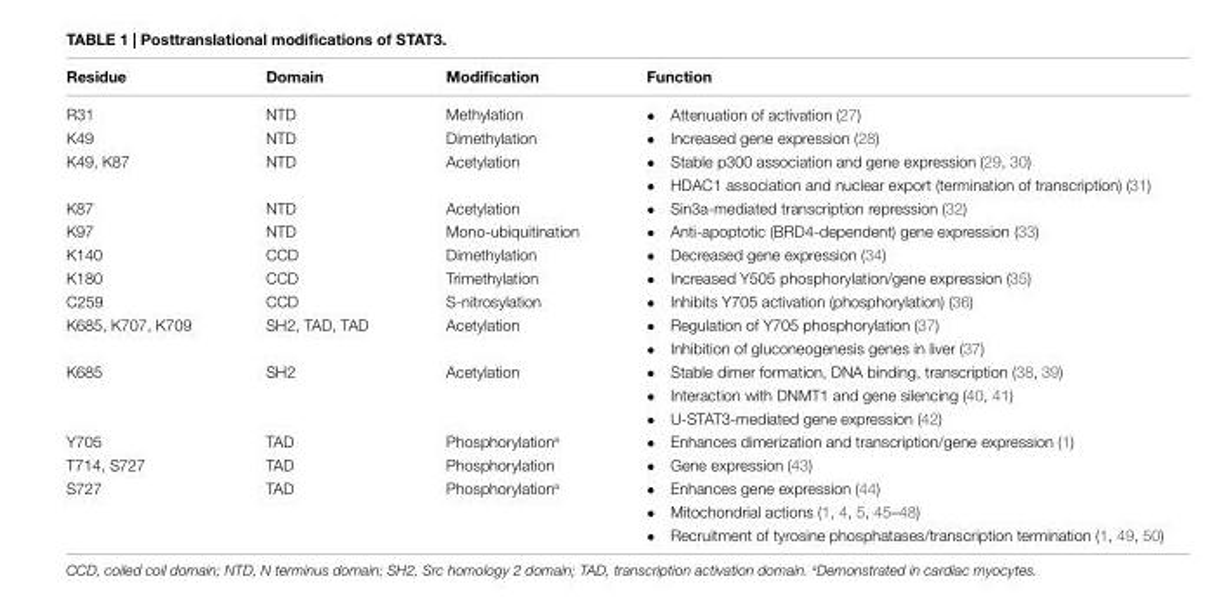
<table><thead><tr><td>Residue</td><td>Domain</td><td>Modification</td><td>Function</td></tr></thead><tbody><tr><td>R31</td><td>NTD</td><td>Methylation</td><td>• Attenuation of activation (27)</td></tr><tr><td>K49</td><td>NTD</td><td>Dimethylation</td><td>• Increased gene expression (28)</td></tr><tr><td rowspan="2">K49, K87</td><td rowspan="2">NTD</td><td rowspan="2">Acetylation</td><td>• Stable p300 association and gene expression (29, 30)</td></tr><tr><td>• HDAC1 association and nuclear export (termination of transcription) (31)</td></tr><tr><td>K87</td><td>NTD</td><td>Acetylation</td><td>• Sin3a-mediated transcription repression (32)</td></tr><tr><td>K97</td><td>NTD</td><td>Mono-ubiquitination</td><td>• Anti-apoptotic (BRD4-dependent) gene expression (33)</td></tr><tr><td>K140</td><td>CCD</td><td>Dimethylation</td><td>• Decreased gene expression (34)</td></tr><tr><td>K180</td><td>CCD</td><td>Trimethylation</td><td>• Increased Y505 phosphorylation/gene expression (35)</td></tr><tr><td>C259</td><td>CCD</td><td>S-nitrosylation</td><td>• Inhibits Y705 activation (phosphorylation) (36)</td></tr><tr><td rowspan="2">K685, K707, K709</td><td rowspan="2">SH2, TAD, TAD</td><td rowspan="2">Acetylation</td><td>• Regulation of Y705 phosphorylation (37)</td></tr><tr><td>• Inhibition of gluconeogenesis genes in liver (37)</td></tr><tr><td rowspan="3">K685</td><td rowspan="3">SH2</td><td rowspan="3">Acetylation</td><td>• Stable dimer formation, DNA binding, transcription (38, 39)</td></tr><tr><td>• Interaction with DNMT1 and gene silencing (40, 41)</td></tr><tr><td>• U-STAT3-mediated gene expression (42)</td></tr><tr><td>Y705</td><td>TAD</td><td>Phosphorylation<sup>a</sup></td><td>• Enhances dimerization and transcription/gene expression (1)</td></tr><tr><td>T714, S727</td><td>TAD</td><td>Phosphorylation</td><td>• Gene expression (43)</td></tr><tr><td rowspan="3">S727</td><td rowspan="3">TAD</td><td rowspan="3">Phosphorylation<sup>a</sup></td><td>• Enhances gene expression (44)</td></tr><tr><td>• Mitochondrial actions (1, 4, 5, 45–48)</td></tr><tr><td>• Recruitment of tyrosine phosphatases/transcription termination (1, 49, 50)</td></tr></tbody></table>